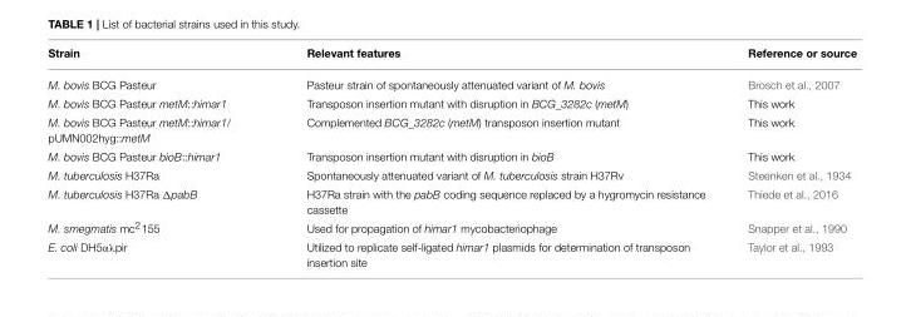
<table><thead><tr><td>Strain</td><td>Relevant features</td><td>Reference or source</td></tr></thead><tbody><tr><td>M. bovis BCG Pasteur</td><td>Pasteur strain of spontaneously attenuated variant of M. bovis</td><td>Brosch et al., 2007</td></tr><tr><td>M. bovis BCG Pasteur metM::himar1</td><td>Transposon insertion mutant with disruption in BCG_3282c (metM)</td><td>This work</td></tr><tr><td>M. bovis BCG Pasteur metM::himar1/ pUMN002hyg::metM</td><td>Complemented BCG_3282c (metM) transposon insertion mutant</td><td>This work</td></tr><tr><td>M. bovis BCG Pasteur bioB::himar1</td><td>Transposon insertion mutant with disruption in bioB</td><td>This work</td></tr><tr><td>M. tuberculosis H37Ra</td><td>Spontaneously attenuated variant of M. tuberculosis strain H37Rv</td><td>Steenken et al., 1934</td></tr><tr><td>M. tuberculosis H37Ra ΔpabB</td><td>H37Ra strain with the pabB coding sequence replaced by a hygromycin resistance cassette</td><td>Thiede et al., 2016</td></tr><tr><td>M. smegmatis mc<sup>2</sup>155</td><td>Used for propagation of himar1 mycobacteriophage</td><td>Snapper et al., 1990</td></tr><tr><td>E. coli DH5αλpir</td><td>Utilized to replicate self-ligated himar1 plasmids for determination of transposon insertion site</td><td>Taylor et al., 1993</td></tr></tbody></table>